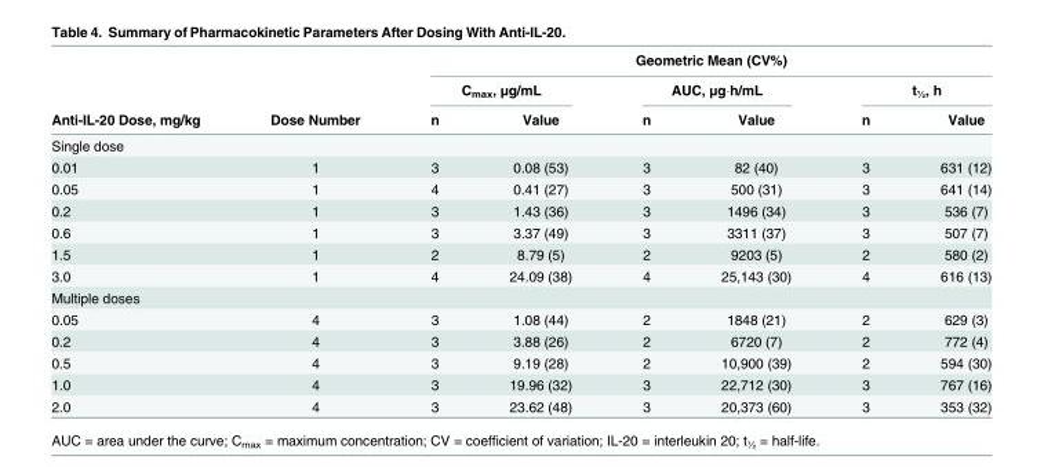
<table><thead><tr><td rowspan="3">Anti-IL-20 Dose, mg/kg</td><td rowspan="3">Dose Number</td><td colspan="6">Geometric Mean (CV%)</td></tr><tr><td colspan="2">C<sub>max</sub>, μg/mL</td><td colspan="2">AUC, μg∙h/mL</td><td colspan="2">t<sub>½</sub>, h</td></tr><tr><td>n</td><td>Value</td><td>n</td><td>Value</td><td>n</td><td>Value</td></tr></thead><tbody><tr><td colspan="8">Single dose</td></tr><tr><td>0.01</td><td>1</td><td>3</td><td>0.08 (53)</td><td>3</td><td>82 (40)</td><td>3</td><td>631 (12)</td></tr><tr><td>0.05</td><td>1</td><td>4</td><td>0.41 (27)</td><td>3</td><td>500 (31)</td><td>3</td><td>641 (14)</td></tr><tr><td>0.2</td><td>1</td><td>3</td><td>1.43 (36)</td><td>3</td><td>1496 (34)</td><td>3</td><td>536 (7)</td></tr><tr><td>0.6</td><td>1</td><td>3</td><td>3.37 (49)</td><td>3</td><td>3311 (37)</td><td>3</td><td>507 (7)</td></tr><tr><td>1.5</td><td>1</td><td>2</td><td>8.79 (5)</td><td>2</td><td>9203 (5)</td><td>2</td><td>580 (2)</td></tr><tr><td>3.0</td><td>1</td><td>4</td><td>24.09 (38)</td><td>4</td><td>25,143 (30)</td><td>4</td><td>616 (13)</td></tr><tr><td colspan="8">Multiple doses</td></tr><tr><td>0.05</td><td>4</td><td>3</td><td>1.08 (44)</td><td>2</td><td>1848 (21)</td><td>2</td><td>629 (3)</td></tr><tr><td>0.2</td><td>4</td><td>3</td><td>3.88 (26)</td><td>2</td><td>6720 (7)</td><td>2</td><td>772 (4)</td></tr><tr><td>0.5</td><td>4</td><td>3</td><td>9.19 (28)</td><td>2</td><td>10,900 (39)</td><td>2</td><td>594 (30)</td></tr><tr><td>1.0</td><td>4</td><td>3</td><td>19.96 (32)</td><td>3</td><td>22,712 (30)</td><td>3</td><td>767 (16)</td></tr><tr><td>2.0</td><td>4</td><td>3</td><td>23.62 (48)</td><td>3</td><td>20,373 (60)</td><td>3</td><td>353 (32)</td></tr></tbody></table>